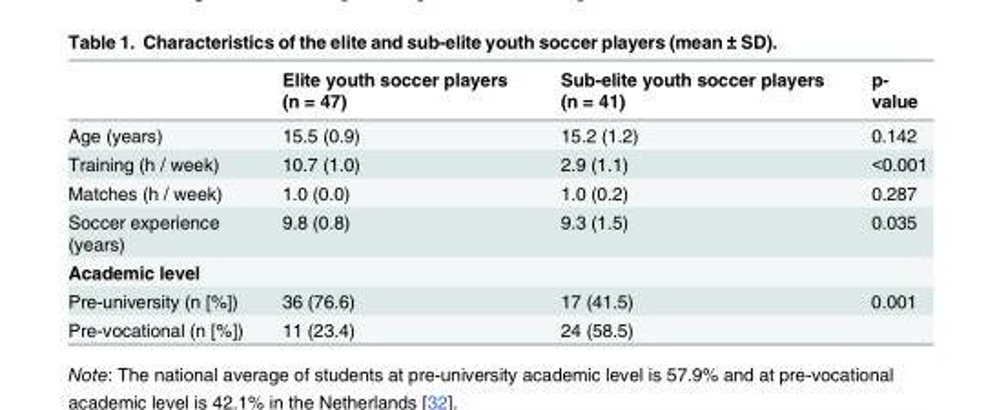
<table><thead><tr><td></td><td>Elite youth soccer players (n = 47)</td><td>Sub-elite youth soccer players (n = 41)</td><td>p- value</td></tr></thead><tbody><tr><td>Age (years)</td><td>15.5 (0.9)</td><td>15.2 (1.2)</td><td>0.142</td></tr><tr><td>Training (h / week)</td><td>10.7 (1.0)</td><td>2.9 (1.1)</td><td>&lt;0.001</td></tr><tr><td>Matches (h / week)</td><td>1.0 (0.0)</td><td>1.0 (0.2)</td><td>0.287</td></tr><tr><td>Soccer experience (years)</td><td>9.8 (0.8)</td><td>9.3 (1.5)</td><td>0.035</td></tr><tr><td colspan="4">Academic level</td></tr><tr><td>Pre-university (n [%])</td><td>36 (76.6)</td><td>17 (41.5)</td><td>0.001</td></tr><tr><td>Pre-vocational (n [%])</td><td>11 (23.4)</td><td>24 (58.5)</td><td></td></tr></tbody></table>